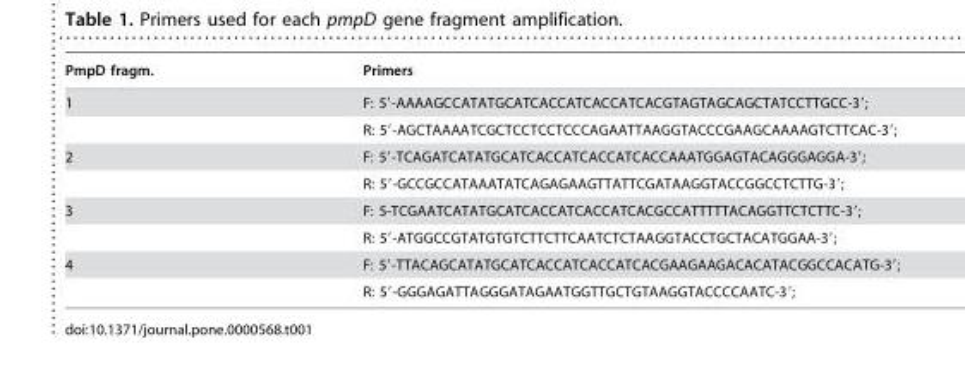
<table><thead><tr><td>PmpD fragm.</td><td>Primers</td></tr></thead><tbody><tr><td rowspan="2">1</td><td>F: 5′-AAAAGCCATATGCATCACCATCACCATCACGTAGTAGCAGCTATCCTTGCC-3′;</td></tr><tr><td>R: 5′-AGCTAAAATCGCTCCTCCTCCCAGAATTAAGGTACCCGAAGCAAAAGTCTTCAC-3′;</td></tr><tr><td rowspan="2">2</td><td>F: 5′-TCAGATCATATGCATCACCATCACCATCACCAAATGGAGTACAGGGAGGA-3′;</td></tr><tr><td>R: 5′-GCCGCCATAAATATCAGAGAAGTTATTCGATAAGGTACCGGCCTCTTG-3′;</td></tr><tr><td rowspan="2">3</td><td>F: 5-TCGAATCATATGCATCACCATCACCATCACGCCATTTTTACAGGTTCTCTTC-3′;</td></tr><tr><td>R: 5′-ATGGCCGTATGTGTCTTCTTCAATCTCTAAGGTACCTGCTACATGGAA-3′;</td></tr><tr><td rowspan="2">4</td><td>F: 5′-TTACAGCATATGCATCACCATCACCATCACGAAGAAGACACATACGGCCACATG-3′;</td></tr><tr><td>R: 5′-GGGAGATTAGGGATAGAATGGTTGCTGTAAGGTACCCCAATC-3′;</td></tr></tbody></table>